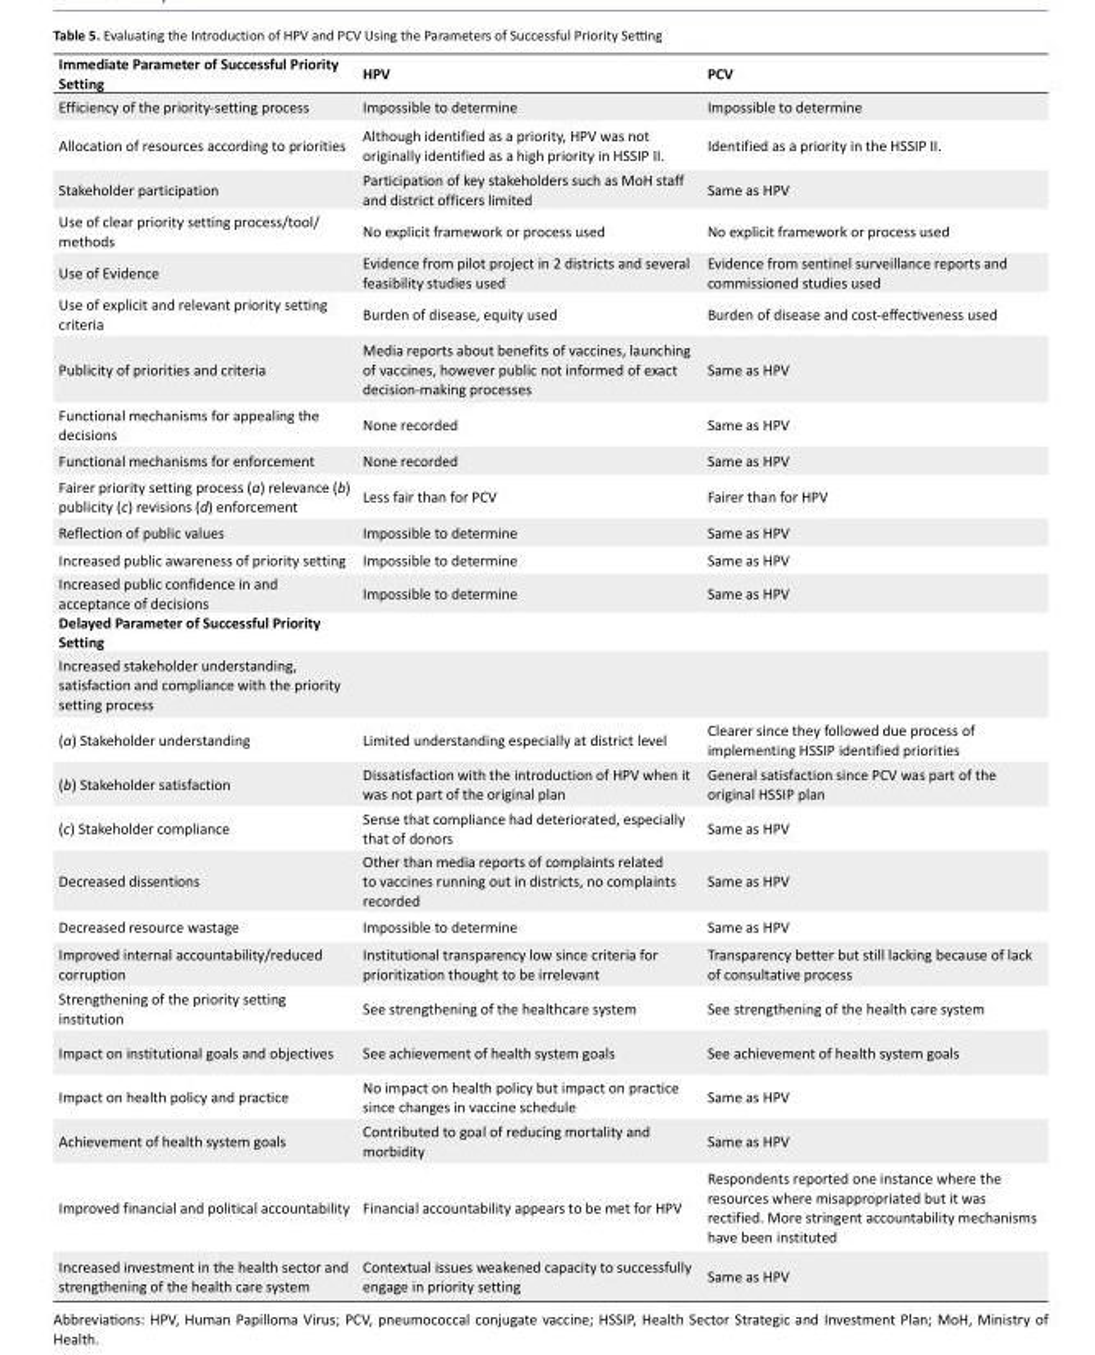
<table><tbody><tr><td>Immediate Parameter of Successful Priority Setting</td><td>HPV</td><td>PCV</td></tr><tr><td>Efficiency of the priority-setting process</td><td>Impossible to determine</td><td>Impossible to determine</td></tr><tr><td>Allocation of resources according to priorities</td><td>Although identified as a priority, HPV was not originally identified as a high priority in HSSIP II.</td><td>Identified as a priority in the HSSIP II.</td></tr><tr><td>Stakeholder participation</td><td>Participation of key stakeholders such as MoH staff and district officers limited</td><td>Same as HPV</td></tr><tr><td>Use of clear priority setting process/tool/ methods</td><td>No explicit framework or process used</td><td>No explicit framework or process used</td></tr><tr><td>Use of Evidence</td><td>Evidence from pilot project in 2 districts and several feasibility studies used</td><td>Evidence from sentinel surveillance reports and commissioned studies used</td></tr><tr><td>Use of explicit and relevant priority setting criteria</td><td>Burden of disease, equity used</td><td>Burden of disease and cost-effectiveness used</td></tr><tr><td>Publicity of priorities and criteria</td><td>Media reports about benefits of vaccines, launching of vaccines, however public not informed of exact decision-making processes</td><td>Same as HPV</td></tr><tr><td>Functional mechanisms for appealing the decisions</td><td>None recorded</td><td>Same as HPV</td></tr><tr><td>Functional mechanisms for enforcement</td><td>None recorded</td><td>Same as HPV</td></tr><tr><td>Fairer priority setting process (a) relevance (b) publicity (c) revisions (d) enforcement</td><td>Less fair than for PCV</td><td>Fairer than for HPV</td></tr><tr><td>Reflection of public values</td><td>Impossible to determine</td><td>Same as HPV</td></tr><tr><td>Increased public awareness of priority setting</td><td>Impossible to determine</td><td>Same as HPV</td></tr><tr><td>Increased public confidence in and acceptance of decisions</td><td>Impossible to determine</td><td>Same as HPV</td></tr><tr><td colspan="3">Delayed Parameter of Successful Priority Setting</td></tr><tr><td colspan="3">Increased stakeholder understanding, satisfaction and compliance with the priority setting process</td></tr><tr><td>(a) Stakeholder understanding</td><td>Limited understanding especially at district level</td><td>Clearer since they followed due process of implementing HSSIP identified priorities</td></tr><tr><td>(b) Stakeholder satisfaction</td><td>Dissatisfaction with the introduction of HPV when it was not part of the original plan</td><td>General satisfaction since PCV was part of the original HSSIP plan</td></tr><tr><td>(c) Stakeholder compliance</td><td>Sense that compliance had deteriorated, especially that of donors</td><td>Same as HPV</td></tr><tr><td>Decreased dissentions</td><td>Other than media reports of complaints related to vaccines running out in districts, no complaints recorded</td><td>Same as HPV</td></tr><tr><td>Decreased resource wastage</td><td>Impossible to determine</td><td>Same as HPV</td></tr><tr><td>Improved internal accountability/reduced corruption</td><td>Institutional transparency low since criteria for prioritization thought to be irrelevant</td><td>Transparency better but still lacking because of lack of consultative process</td></tr><tr><td>Strengthening of the priority setting institution</td><td>See strengthening of the healthcare system</td><td>See strengthening of the health care system</td></tr><tr><td>Impact on institutional goals and objectives</td><td>See achievement of health system goals</td><td>See achievement of health system goals</td></tr><tr><td>Impact on health policy and practice</td><td>No impact on health policy but impact on practice since changes in vaccine schedule</td><td>Same as HPV</td></tr><tr><td>Achievement of health system goals</td><td>Contributed to goal of reducing mortality and morbidity</td><td>Same as HPV</td></tr><tr><td>Improved financial and political accountability</td><td>Financial accountability appears to be met for HPV</td><td>Respondents reported one instance where the resources where misappropriated but it was rectified. More stringent accountability mechanisms have been instituted</td></tr><tr><td>Increased investment in the health sector and strengthening of the health care system</td><td>Contextual issues weakened capacity to successfully engage in priority setting</td><td>Same as HPV</td></tr></tbody></table>